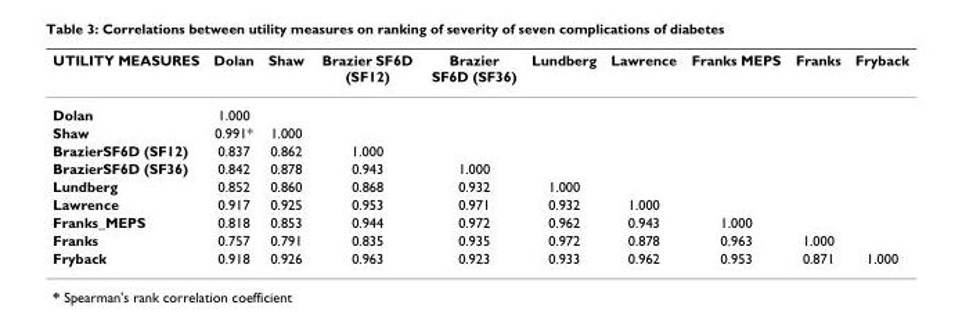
<table><thead><tr><td>UTILITY MEASURES</td><td>Dolan</td><td>Shaw</td><td>Brazier SF6D (SF12)</td><td>Brazier SF6D (SF36)</td><td>Lundberg</td><td>Lawrence</td><td>Franks MEPS</td><td>Franks</td><td>Fryback</td></tr></thead><tbody><tr><td>Dolan</td><td>1.000</td><td></td><td></td><td></td><td></td><td></td><td></td><td></td><td></td></tr><tr><td>Shaw</td><td>0.991*</td><td>1.000</td><td></td><td></td><td></td><td></td><td></td><td></td><td></td></tr><tr><td>BrazierSF6D (SF12)</td><td>0.837</td><td>0.862</td><td>1.000</td><td></td><td></td><td></td><td></td><td></td><td></td></tr><tr><td>BrazierSF6D (SF36)</td><td>0.842</td><td>0.878</td><td>0.943</td><td>1.000</td><td></td><td></td><td></td><td></td><td></td></tr><tr><td>Lundberg</td><td>0.852</td><td>0.860</td><td>0.868</td><td>0.932</td><td>1.000</td><td></td><td></td><td></td><td></td></tr><tr><td>Lawrence</td><td>0.917</td><td>0.925</td><td>0.953</td><td>0.971</td><td>0.932</td><td>1.000</td><td></td><td></td><td></td></tr><tr><td>Franks_MEPS</td><td>0.818</td><td>0.853</td><td>0.944</td><td>0.972</td><td>0.962</td><td>0.943</td><td>1.000</td><td></td><td></td></tr><tr><td>Franks</td><td>0.757</td><td>0.791</td><td>0.835</td><td>0.935</td><td>0.972</td><td>0.878</td><td>0.963</td><td>1.000</td><td></td></tr><tr><td>Fryback</td><td>0.918</td><td>0.926</td><td>0.963</td><td>0.923</td><td>0.933</td><td>0.962</td><td>0.953</td><td>0.871</td><td>1.000</td></tr></tbody></table>